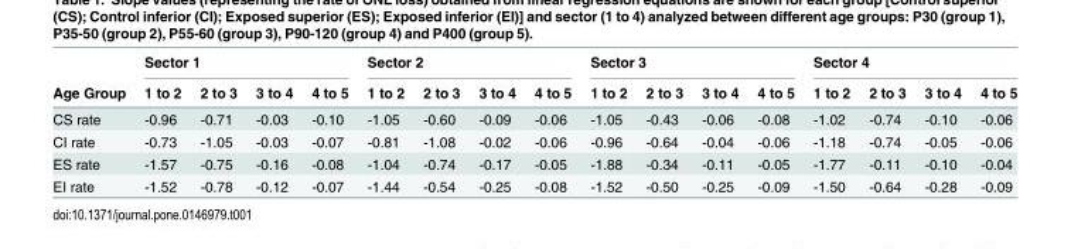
<table><thead><tr><td rowspan="2">Age Group</td><td colspan="4">Sector 1</td><td colspan="4">Sector 2</td><td colspan="4">Sector 3</td><td colspan="4">Sector 4</td></tr><tr><td>1 to 2</td><td>2 to 3</td><td>3 to 4</td><td>4 to 5</td><td>1 to 2</td><td>2 to 3</td><td>3 to 4</td><td>4 to 5</td><td>1 to 2</td><td>2 to 3</td><td>3 to 4</td><td>4 to 5</td><td>1 to 2</td><td>2 to 3</td><td>3 to 4</td><td>4 to 5</td></tr></thead><tbody><tr><td>CS rate</td><td>-0.96</td><td>-0.71</td><td>-0.03</td><td>-0.10</td><td>-1.05</td><td>-0.60</td><td>-0.09</td><td>-0.06</td><td>-1.05</td><td>-0.43</td><td>-0.06</td><td>-0.08</td><td>-1.02</td><td>-0.74</td><td>-0.10</td><td>-0.06</td></tr><tr><td>CI rate</td><td>-0.73</td><td>-1.05</td><td>-0.03</td><td>-0.07</td><td>-0.81</td><td>-1.08</td><td>-0.02</td><td>-0.06</td><td>-0.96</td><td>-0.64</td><td>-0.04</td><td>-0.06</td><td>-1.18</td><td>-0.74</td><td>-0.05</td><td>-0.06</td></tr><tr><td>ES rate</td><td>-1.57</td><td>-0.75</td><td>-0.16</td><td>-0.08</td><td>-1.04</td><td>-0.74</td><td>-0.17</td><td>-0.05</td><td>-1.88</td><td>-0.34</td><td>-0.11</td><td>-0.05</td><td>-1.77</td><td>-0.11</td><td>-0.10</td><td>-0.04</td></tr><tr><td>EI rate</td><td>-1.52</td><td>-0.78</td><td>-0.12</td><td>-0.07</td><td>-1.44</td><td>-0.54</td><td>-0.25</td><td>-0.08</td><td>-1.52</td><td>-0.50</td><td>-0.25</td><td>-0.09</td><td>-1.50</td><td>-0.64</td><td>-0.28</td><td>-0.09</td></tr></tbody></table>